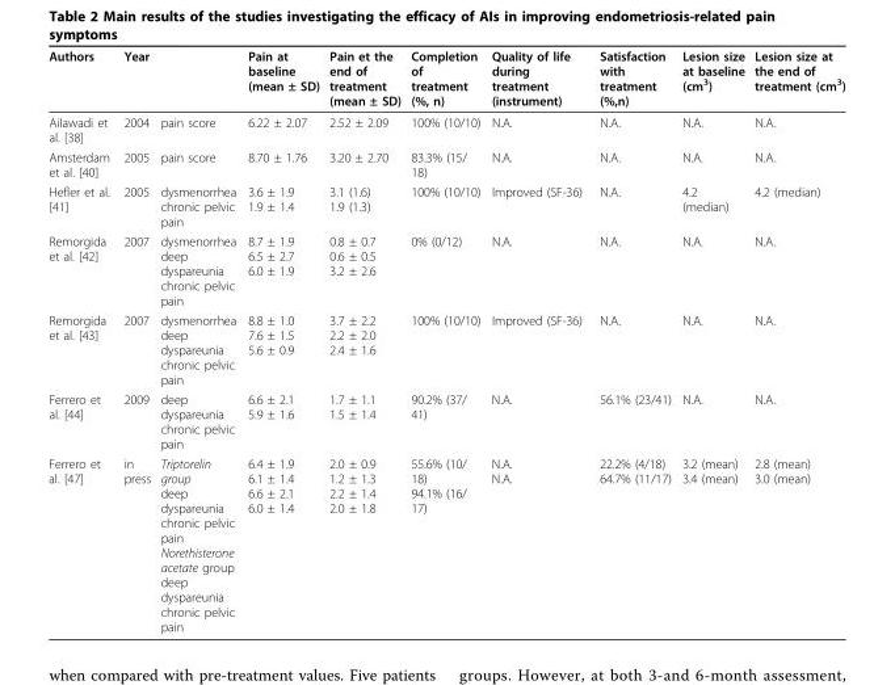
<table><thead><tr><td>Authors</td><td>Year</td><td></td><td>Pain at baseline (mean ± SD)</td><td>Pain et the end of treatment (mean ± SD)</td><td>Completion of treatment (%, n)</td><td>Quality of life during treatment (instrument)</td><td>Satisfaction with treatment (%,n)</td><td>Lesion size at baseline (cm<sup>3</sup>)</td><td>Lesion size at the end of treatment (cm<sup>3</sup>)</td></tr></thead><tbody><tr><td>Ailawadi et al. [38]</td><td>2004</td><td>pain score</td><td>6.22 ± 2.07</td><td>2.52 ± 2.09</td><td>100% (10/10)</td><td>N.A.</td><td>N.A.</td><td>N.A.</td><td>N.A.</td></tr><tr><td>Amsterdam et al. [40]</td><td>2005</td><td>pain score</td><td>8.70 ± 1.76</td><td>3.20 ± 2.70</td><td>83.3% (15/ 18)</td><td>N.A.</td><td>N.A.</td><td>N.A.</td><td>N.A.</td></tr><tr><td>Hefler et al. [41]</td><td>2005</td><td>dysmenorrhea chronic pelvic pain</td><td>3.6 ± 1.9 1.9 ± 1.4</td><td>3.1 (1.6) 1.9 (1.3)</td><td>100% (10/10)</td><td>Improved (SF-36)</td><td>N.A.</td><td>4.2 (median)</td><td>4.2 (median)</td></tr><tr><td>Remorgida et al. [42]</td><td>2007</td><td>dysmenorrhea deep dyspareunia chronic pelvic pain</td><td>8.7 ± 1.9 6.5 ± 2.7 6.0 ± 1.9</td><td>0.8 ± 0.7 0.6 ± 0.5 3.2 ± 2.6</td><td>0% (0/12)</td><td>N.A.</td><td>N.A.</td><td>N.A.</td><td>N.A.</td></tr><tr><td>Remorgida et al. [43]</td><td>2007</td><td>dysmenorrhea deep dyspareunia chronic pelvic pain</td><td>8.8 ± 1.0 7.6 ± 1.5 5.6 ± 0.9</td><td>3.7 ± 2.2 2.2 ± 2.0 2.4 ± 1.6</td><td>100% (10/10)</td><td>Improved (SF-36)</td><td>N.A.</td><td>N.A.</td><td>N.A.</td></tr><tr><td>Ferrero et al. [44]</td><td>2009</td><td>deep dyspareunia chronic pelvic pain</td><td>6.6 ± 2.1 5.9 ± 1.6</td><td>1.7 ± 1.1 1.5 ± 1.4</td><td>90.2% (37/ 41)</td><td>N.A.</td><td>56.1% (23/41)</td><td>N.A.</td><td>N.A.</td></tr><tr><td>Ferrero et al. [47]</td><td>in press</td><td>Triptorelin group deep dyspareunia chronic pelvic pain Norethisterone acetate group deep dyspareunia chronic pelvic pain</td><td>6.4 ± 1.9 6.1 ± 1.4 6.6 ± 2.1 6.0 ± 1.4</td><td>2.0 ± 0.9 1.2 ± 1.3 2.2 ± 1.4 2.0 ± 1.8</td><td>55.6% (10/ 18) 94.1% (16/ 17)</td><td>N.A. N.A.</td><td>22.2% (4/18) 64.7% (11/17)</td><td>3.2 (mean) 3.4 (mean)</td><td>2.8 (mean) 3.0 (mean)</td></tr></tbody></table>